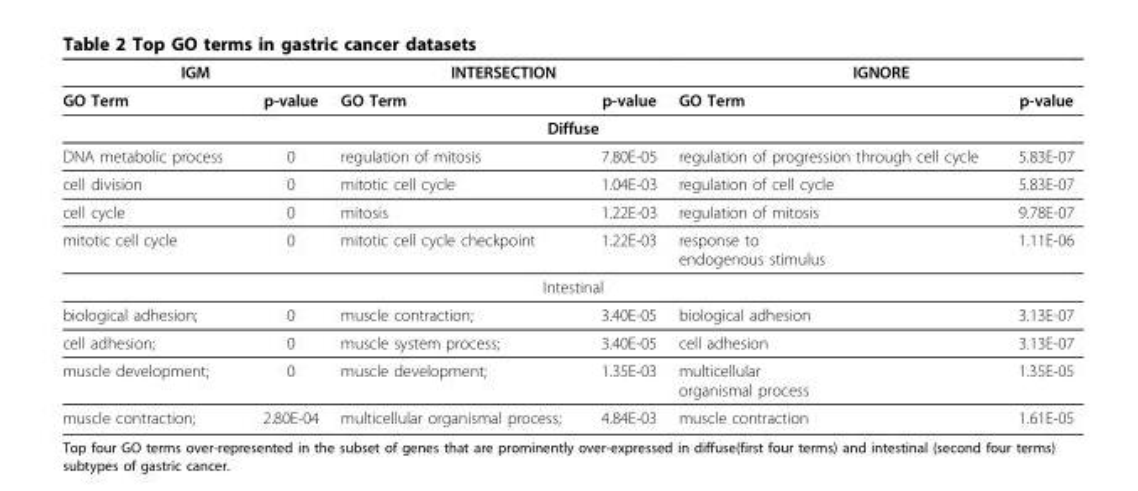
<table><thead><tr><td colspan="2">IGM</td><td colspan="2">INTERSECTION</td><td colspan="2">IGNORE</td></tr><tr><td>GO Term</td><td>p-value</td><td>GO Term</td><td>p-value</td><td>GO Term</td><td>p-value</td></tr></thead><tbody><tr><td colspan="6">Diffuse</td></tr><tr><td>DNA metabolic process</td><td>0</td><td>regulation of mitosis</td><td>7.80E-05</td><td>regulation of progression through cell cycle</td><td>5.83E-07</td></tr><tr><td>cell division</td><td>0</td><td>mitotic cell cycle</td><td>1.04E-03</td><td>regulation of cell cycle</td><td>5.83E-07</td></tr><tr><td>cell cycle</td><td>0</td><td>mitosis</td><td>1.22E-03</td><td>regulation of mitosis</td><td>9.78E-07</td></tr><tr><td>mitotic cell cycle</td><td>0</td><td>mitotic cell cycle checkpoint</td><td>1.22E-03</td><td>response to endogenous stimulus</td><td>1.11E-06</td></tr><tr><td colspan="6">Intestinal</td></tr><tr><td>biological adhesion;</td><td>0</td><td>muscle contraction;</td><td>3.40E-05</td><td>biological adhesion</td><td>3.13E-07</td></tr><tr><td>cell adhesion;</td><td>0</td><td>muscle system process;</td><td>3.40E-05</td><td>cell adhesion</td><td>3.13E-07</td></tr><tr><td>muscle development;</td><td>0</td><td>muscle development;</td><td>1.35E-03</td><td>multicellular organismal process</td><td>1.35E-05</td></tr><tr><td>muscle contraction;</td><td>2.80E-04</td><td>multicellular organismal process;</td><td>4.84E-03</td><td>muscle contraction</td><td>1.61E-05</td></tr></tbody></table>